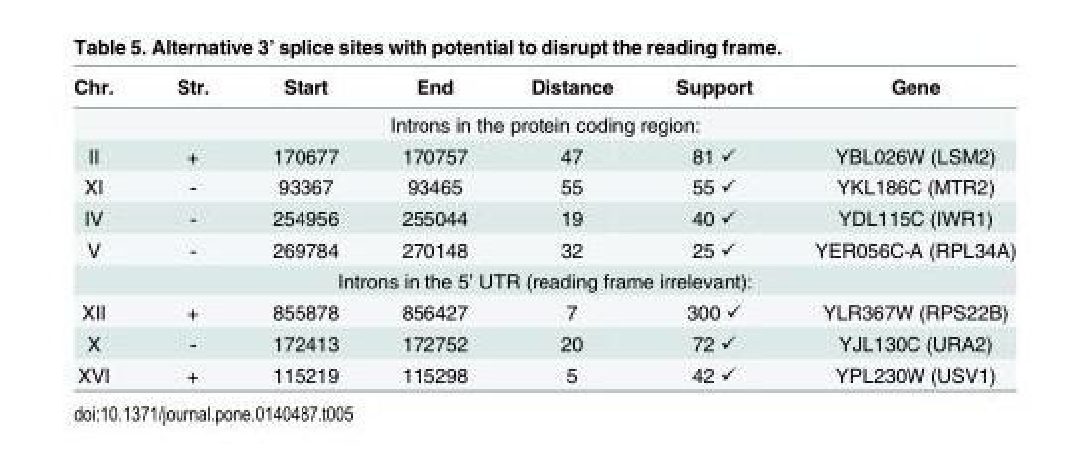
<table><thead><tr><td>Chr.</td><td>Str.</td><td>Start</td><td>End</td><td>Distance</td><td>Support</td><td>Gene</td></tr></thead><tbody><tr><td colspan="7">Introns in the protein coding region:</td></tr><tr><td>II</td><td>+</td><td>170677</td><td>170757</td><td>47</td><td>81 ✓</td><td>YBL026W (LSM2)</td></tr><tr><td>XI</td><td>-</td><td>93367</td><td>93465</td><td>55</td><td>55 ✓</td><td>YKL186C (MTR2)</td></tr><tr><td>IV</td><td>-</td><td>254956</td><td>255044</td><td>19</td><td>40 ✓</td><td>YDL115C (IWR1)</td></tr><tr><td>V</td><td>-</td><td>269784</td><td>270148</td><td>32</td><td>25 ✓</td><td>YER056C-A (RPL34A)</td></tr><tr><td colspan="7">Introns in the 5’ UTR (reading frame irrelevant):</td></tr><tr><td>XII</td><td>+</td><td>855878</td><td>856427</td><td>7</td><td>300 ✓</td><td>YLR367W (RPS22B)</td></tr><tr><td>X</td><td>-</td><td>172413</td><td>172752</td><td>20</td><td>72 ✓</td><td>YJL130C (URA2)</td></tr><tr><td>XVI</td><td>+</td><td>115219</td><td>115298</td><td>5</td><td>42 ✓</td><td>YPL230W (USV1)</td></tr></tbody></table>